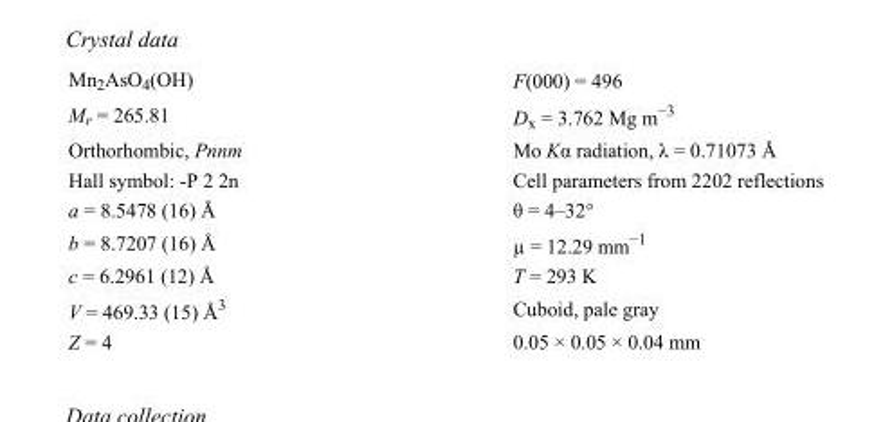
<table><tbody><tr><td>Mn<sub>2</sub>AsO<sub>4</sub>(OH)</td><td>F(000) = 496</td></tr><tr><td>M<sub>r</sub> = 265.81</td><td>D<sub>x</sub> = 3.762 Mg m<sup>−3</sup></td></tr><tr><td>Orthorhombic, Pnnm</td><td>Mo Kα radiation, λ = 0.71073 Å</td></tr><tr><td>Hall symbol: -P 2 2n</td><td>Cell parameters from 2202 reflections</td></tr><tr><td>a = 8.5478 (16) Å</td><td>θ = 4–32°</td></tr><tr><td>b = 8.7207 (16) Å</td><td>µ = 12.29 mm<sup>−1</sup></td></tr><tr><td>c = 6.2961 (12) Å</td><td>T = 293 K</td></tr><tr><td>V = 469.33 (15) Å<sup>3</sup></td><td>Cuboid, pale gray</td></tr><tr><td>Z = 4</td><td>0.05 × 0.05 × 0.04 mm</td></tr></tbody></table>